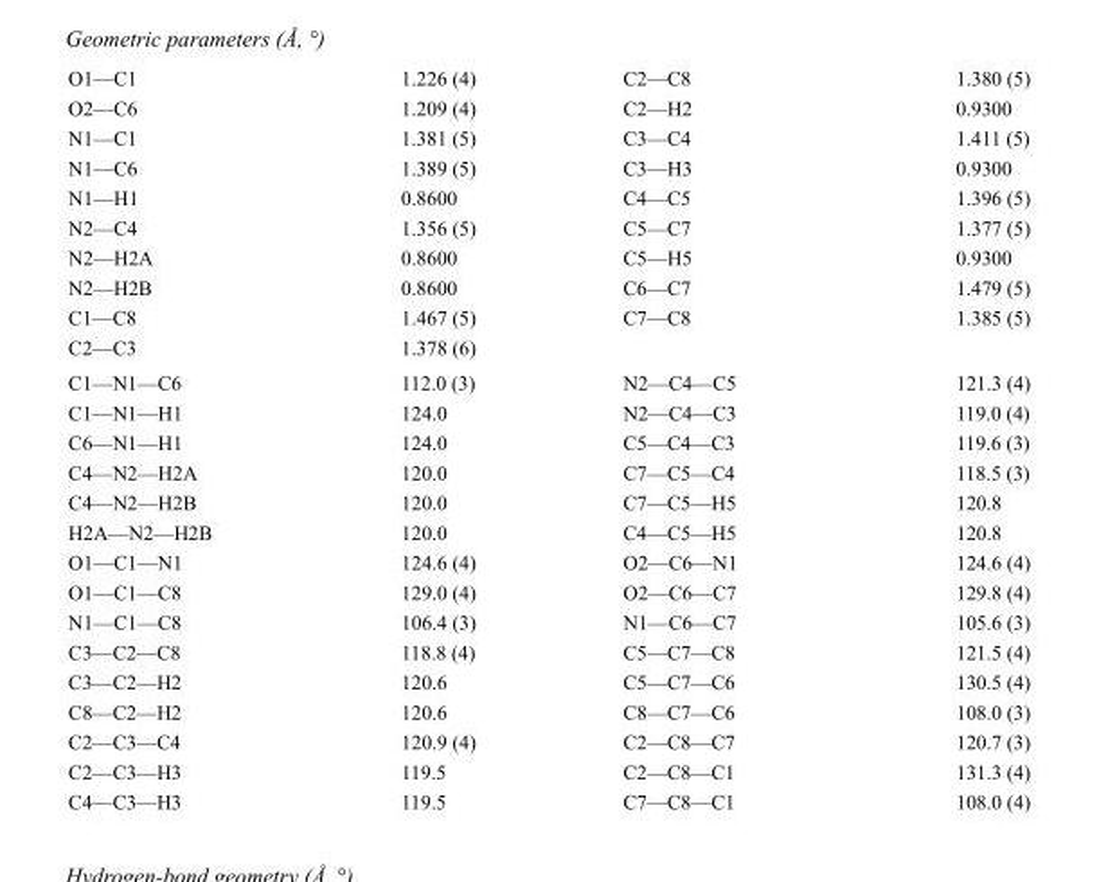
<table><tbody><tr><td>O1—C1</td><td>1.226 (4)</td><td>C2—C8</td><td>1.380 (5)</td></tr><tr><td>O2—C6</td><td>1.209 (4)</td><td>C2—H2</td><td>0.9300</td></tr><tr><td>N1—C1</td><td>1.381 (5)</td><td>C3—C4</td><td>1.411 (5)</td></tr><tr><td>N1—C6</td><td>1.389 (5)</td><td>C3—H3</td><td>0.9300</td></tr><tr><td>N1—H1</td><td>0.8600</td><td>C4—C5</td><td>1.396 (5)</td></tr><tr><td>N2—C4</td><td>1.356 (5)</td><td>C5—C7</td><td>1.377 (5)</td></tr><tr><td>N2—H2A</td><td>0.8600</td><td>C5—H5</td><td>0.9300</td></tr><tr><td>N2—H2B</td><td>0.8600</td><td>C6—C7</td><td>1.479 (5)</td></tr><tr><td>C1—C8</td><td>1.467 (5)</td><td>C7—C8</td><td>1.385 (5)</td></tr><tr><td>C2—C3</td><td>1.378 (6)</td><td></td><td></td></tr><tr><td>C1—N1—C6</td><td>112.0 (3)</td><td>N2—C4—C5</td><td>121.3 (4)</td></tr><tr><td>C1—N1—H1</td><td>124.0</td><td>N2—C4—C3</td><td>119.0 (4)</td></tr><tr><td>C6—N1—H1</td><td>124.0</td><td>C5—C4—C3</td><td>119.6 (3)</td></tr><tr><td>C4—N2—H2A</td><td>120.0</td><td>C7—C5—C4</td><td>118.5 (3)</td></tr><tr><td>C4—N2—H2B</td><td>120.0</td><td>C7—C5—H5</td><td>120.8</td></tr><tr><td>H2A—N2—H2B</td><td>120.0</td><td>C4—C5—H5</td><td>120.8</td></tr><tr><td>O1—C1—N1</td><td>124.6 (4)</td><td>O2—C6—N1</td><td>124.6 (4)</td></tr><tr><td>O1—C1—C8</td><td>129.0 (4)</td><td>O2—C6—C7</td><td>129.8 (4)</td></tr><tr><td>N1—C1—C8</td><td>106.4 (3)</td><td>N1—C6—C7</td><td>105.6 (3)</td></tr><tr><td>C3—C2—C8</td><td>118.8 (4)</td><td>C5—C7—C8</td><td>121.5 (4)</td></tr><tr><td>C3—C2—H2</td><td>120.6</td><td>C5—C7—C6</td><td>130.5 (4)</td></tr><tr><td>C8—C2—H2</td><td>120.6</td><td>C8—C7—C6</td><td>108.0 (3)</td></tr><tr><td>C2—C3—C4</td><td>120.9 (4)</td><td>C2—C8—C7</td><td>120.7 (3)</td></tr><tr><td>C2—C3—H3</td><td>119.5</td><td>C2—C8—C1</td><td>131.3 (4)</td></tr><tr><td>C4—C3—H3</td><td>119.5</td><td>C7—C8—C1</td><td>108.0 (4)</td></tr></tbody></table>